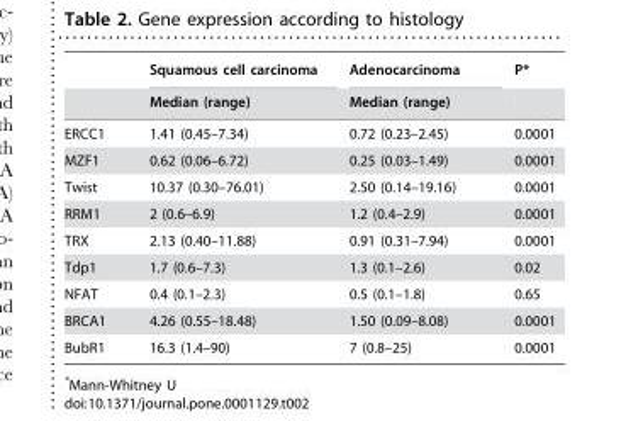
<table><thead><tr><td rowspan="2"></td><td rowspan="2">Squamous cell carcinoma Median (range)</td><td rowspan="2">Adenocarcinoma Median (range)</td><td rowspan="2">P*</td></tr><tr></tr></thead><tbody><tr><td>ERCC1</td><td>1.41 (0.45–7.34)</td><td>0.72 (0.23–2.45)</td><td>0.0001</td></tr><tr><td>MZF1</td><td>0.62 (0.06–6.72)</td><td>0.25 (0.03–1.49)</td><td>0.0001</td></tr><tr><td>Twist</td><td>10.37 (0.30–76.01)</td><td>2.50 (0.14–19.16)</td><td>0.0001</td></tr><tr><td>RRM1</td><td>2 (0.6–6.9)</td><td>1.2 (0.4–2.9)</td><td>0.0001</td></tr><tr><td>TRX</td><td>2.13 (0.40–11.88)</td><td>0.91 (0.31–7.94)</td><td>0.0001</td></tr><tr><td>Tdp1</td><td>1.7 (0.6–7.3)</td><td>1.3 (0.1–2.6)</td><td>0.02</td></tr><tr><td>NFAT</td><td>0.4 (0.1–2.3)</td><td>0.5 (0.1–1.8)</td><td>0.65</td></tr><tr><td>BRCA1</td><td>4.26 (0.55–18.48)</td><td>1.50 (0.09–8.08)</td><td>0.0001</td></tr><tr><td>BubR1</td><td>16.3 (1.4–90)</td><td>7 (0.8–25)</td><td>0.0001</td></tr></tbody></table>